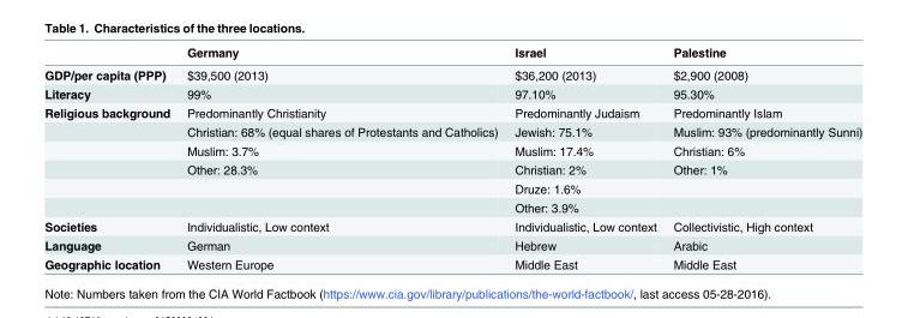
<table><thead><tr><td></td><td>Germany</td><td>Israel</td><td>Palestine</td></tr></thead><tbody><tr><td>GDP/per capita (PPP)</td><td>$39,500 (2013)</td><td>$36,200 (2013)</td><td>$2,900 (2008)</td></tr><tr><td>Literacy</td><td>99%</td><td>97.10%</td><td>95.30%</td></tr><tr><td rowspan="6">Religious background</td><td>Predominantly Christianity</td><td>Predominantly Judaism</td><td>Predominantly Islam</td></tr><tr><td>Christian: 68% (equal shares of Protestants and Catholics)</td><td>Jewish: 75.1%</td><td>Muslim: 93% (predominantly Sunni)</td></tr><tr><td>Muslim: 3.7%</td><td>Muslim: 17.4%</td><td>Christian: 6%</td></tr><tr><td>Other: 28.3%</td><td>Christian: 2%</td><td>Other: 1%</td></tr><tr><td></td><td>Druze: 1.6%</td><td></td></tr><tr><td></td><td>Other: 3.9%</td><td></td></tr><tr><td>Societies</td><td>Individualistic, Low context</td><td>Individualistic, Low context</td><td>Collectivistic, High context</td></tr><tr><td>Language</td><td>German</td><td>Hebrew</td><td>Arabic</td></tr><tr><td>Geographic location</td><td>Western Europe</td><td>Middle East</td><td>Middle East</td></tr></tbody></table>